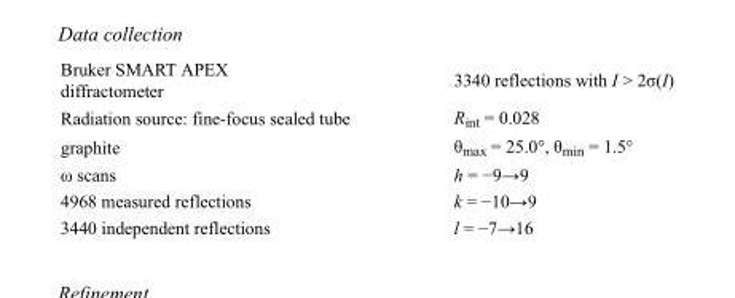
<table><tbody><tr><td>Bruker SMART APEX diffractometer</td><td>3340 reflections with I &gt; 2σ(I)</td></tr><tr><td>Radiation source: fine-focus sealed tube</td><td>R<sub>int</sub> = 0.028</td></tr><tr><td>graphite</td><td>θ<sub>max</sub> = 25.0°, θ<sub>min</sub> = 1.5°</td></tr><tr><td>ω scans</td><td>h = −9→9</td></tr><tr><td>4968 measured reflections</td><td>k = −10→9</td></tr><tr><td>3440 independent reflections</td><td>l = −7→16</td></tr></tbody></table>